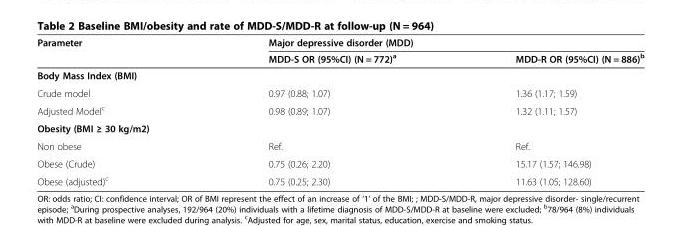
<table><thead><tr><td rowspan="2">Parameter</td><td colspan="2">Major depressive disorder (MDD)</td></tr><tr><td>MDD-S OR (95%CI) (N = 772)<sup>a</sup></td><td>MDD-R OR (95%CI) (N = 886)<sup>b</sup></td></tr></thead><tbody><tr><td colspan="3">Body Mass Index (BMI)</td></tr><tr><td>Crude model</td><td>0.97 (0.88; 1.07)</td><td>1.36 (1.17; 1.59)</td></tr><tr><td>Adjusted Model<sup>c</sup></td><td>0.98 (0.89; 1.07)</td><td>1.32 (1.11; 1.57)</td></tr><tr><td colspan="3">Obesity (BMI ≥ 30 kg/m2)</td></tr><tr><td>Non obese</td><td>Ref.</td><td>Ref.</td></tr><tr><td>Obese (Crude)</td><td>0.75 (0.26; 2.20)</td><td>15.17 (1.57; 146.98)</td></tr><tr><td>Obese (adjusted)<sup>c</sup></td><td>0.75 (0.25; 2.30)</td><td>11.63 (1.05; 128.60)</td></tr></tbody></table>